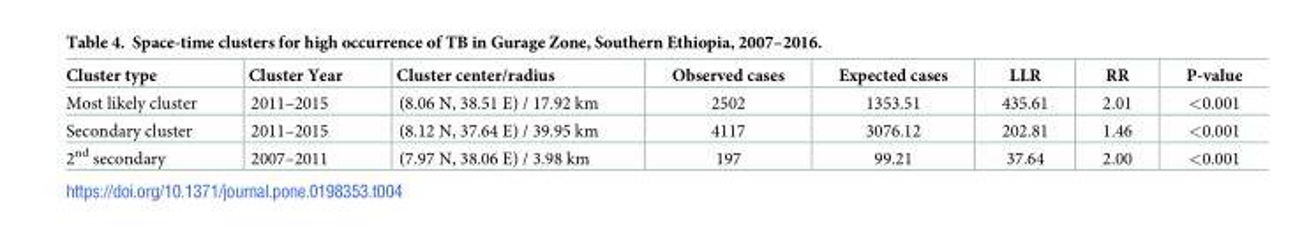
<table><thead><tr><td>Cluster type</td><td>Cluster Year</td><td>Cluster center/radius</td><td>Observed cases</td><td>Expected cases</td><td>LLR</td><td>RR</td><td>P-value</td></tr></thead><tbody><tr><td>Most likely cluster</td><td>2011–2015</td><td>(8.06 N, 38.51 E) / 17.92 km</td><td>2502</td><td>1353.51</td><td>435.61</td><td>2.01</td><td>&lt;0.001</td></tr><tr><td>Secondary cluster</td><td>2011–2015</td><td>(8.12 N, 37.64 E) / 39.95 km</td><td>4117</td><td>3076.12</td><td>202.81</td><td>1.46</td><td>&lt;0.001</td></tr><tr><td>2<sup>nd</sup> secondary</td><td>2007–2011</td><td>(7.97 N, 38.06 E) / 3.98 km</td><td>197</td><td>99.21</td><td>37.64</td><td>2.00</td><td>&lt;0.001</td></tr></tbody></table>